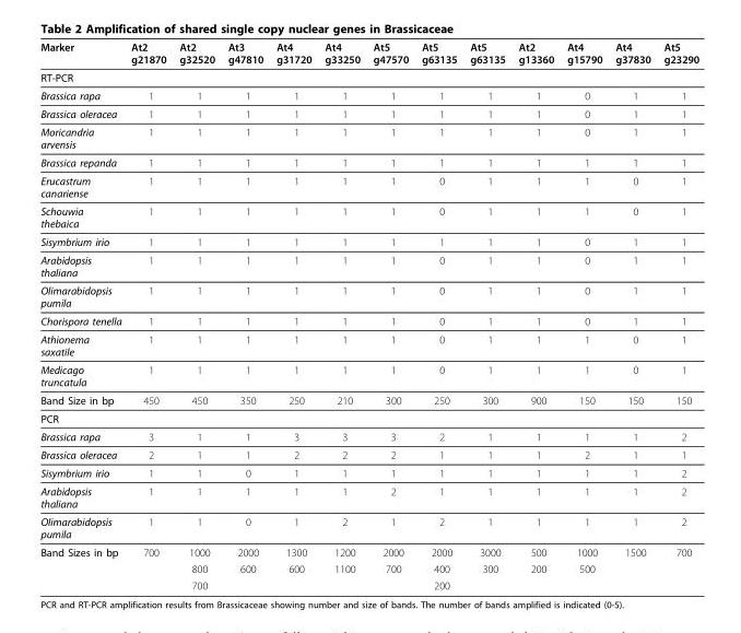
<table><thead><tr><td>Marker</td><td>At2 g21870</td><td>At2 g32520</td><td>At3 g47810</td><td>At4 g31720</td><td>At4 g33250</td><td>At5 g47570</td><td>At5 g63135</td><td>At5 g63135</td><td>At2 g13360</td><td>At4 g15790</td><td>At4 g37830</td><td>At5 g23290</td></tr></thead><tbody><tr><td colspan="13">RT-PCR</td></tr><tr><td>Brassica rapa</td><td>1</td><td>1</td><td>1</td><td>1</td><td>1</td><td>1</td><td>1</td><td>1</td><td>1</td><td>0</td><td>1</td><td>1</td></tr><tr><td>Brassica oleracea</td><td>1</td><td>1</td><td>1</td><td>1</td><td>1</td><td>1</td><td>1</td><td>1</td><td>1</td><td>0</td><td>1</td><td>1</td></tr><tr><td>Moricandria arvensis</td><td>1</td><td>1</td><td>1</td><td>1</td><td>1</td><td>1</td><td>1</td><td>1</td><td>1</td><td>0</td><td>1</td><td>1</td></tr><tr><td>Brassica repanda</td><td>1</td><td>1</td><td>1</td><td>1</td><td>1</td><td>1</td><td>1</td><td>1</td><td>1</td><td>1</td><td>1</td><td>1</td></tr><tr><td>Erucastrum canariense</td><td>1</td><td>1</td><td>1</td><td>1</td><td>1</td><td>1</td><td>0</td><td>1</td><td>1</td><td>1</td><td>0</td><td>1</td></tr><tr><td>Schouwia thebaica</td><td>1</td><td>1</td><td>1</td><td>1</td><td>1</td><td>1</td><td>0</td><td>1</td><td>1</td><td>1</td><td>0</td><td>1</td></tr><tr><td>Sisymbrium irio</td><td>1</td><td>1</td><td>1</td><td>1</td><td>1</td><td>1</td><td>1</td><td>1</td><td>1</td><td>0</td><td>1</td><td>1</td></tr><tr><td>Arabidopsis thaliana</td><td>1</td><td>1</td><td>1</td><td>1</td><td>1</td><td>1</td><td>0</td><td>1</td><td>1</td><td>0</td><td>1</td><td>1</td></tr><tr><td>Olimarabidopsis pumila</td><td>1</td><td>1</td><td>1</td><td>1</td><td>1</td><td>1</td><td>0</td><td>1</td><td>1</td><td>0</td><td>1</td><td>1</td></tr><tr><td>Chorispora tenella</td><td>1</td><td>1</td><td>1</td><td>1</td><td>1</td><td>1</td><td>0</td><td>1</td><td>1</td><td>0</td><td>1</td><td>1</td></tr><tr><td>Athionema saxatile</td><td>1</td><td>1</td><td>1</td><td>1</td><td>1</td><td>1</td><td>0</td><td>1</td><td>1</td><td>1</td><td>0</td><td>1</td></tr><tr><td>Medicago truncatula</td><td>1</td><td>1</td><td>1</td><td>1</td><td>1</td><td>1</td><td>0</td><td>1</td><td>1</td><td>1</td><td>0</td><td>1</td></tr><tr><td>Band Size in bp</td><td>450</td><td>450</td><td>350</td><td>250</td><td>210</td><td>300</td><td>250</td><td>300</td><td>900</td><td>150</td><td>150</td><td>150</td></tr><tr><td colspan="13">PCR</td></tr><tr><td>Brassica rapa</td><td>3</td><td>1</td><td>1</td><td>3</td><td>3</td><td>3</td><td>2</td><td>1</td><td>1</td><td>1</td><td>1</td><td>2</td></tr><tr><td>Brassica oleracea</td><td>2</td><td>1</td><td>1</td><td>2</td><td>2</td><td>2</td><td>1</td><td>1</td><td>1</td><td>2</td><td>1</td><td>1</td></tr><tr><td>Sisymbrium irio</td><td>1</td><td>1</td><td>0</td><td>1</td><td>1</td><td>1</td><td>1</td><td>1</td><td>1</td><td>1</td><td>1</td><td>2</td></tr><tr><td>Arabidopsis thaliana</td><td>1</td><td>1</td><td>1</td><td>1</td><td>1</td><td>2</td><td>1</td><td>1</td><td>1</td><td>1</td><td>1</td><td>2</td></tr><tr><td>Olimarabidopsis pumila</td><td>1</td><td>1</td><td>0</td><td>1</td><td>2</td><td>1</td><td>2</td><td>1</td><td>1</td><td>1</td><td>1</td><td>2</td></tr><tr><td rowspan="3">Band Sizes in bp</td><td>700</td><td>1000</td><td>2000</td><td>1300</td><td>1200</td><td>2000</td><td>2000</td><td>3000</td><td>500</td><td>1000</td><td>1500</td><td>700</td></tr><tr><td></td><td>800</td><td>600</td><td>600</td><td>1100</td><td>700</td><td>400</td><td>300</td><td>200</td><td>500</td><td></td><td></td></tr><tr><td></td><td>700</td><td></td><td></td><td></td><td></td><td>200</td><td></td><td></td><td></td><td></td><td></td></tr></tbody></table>